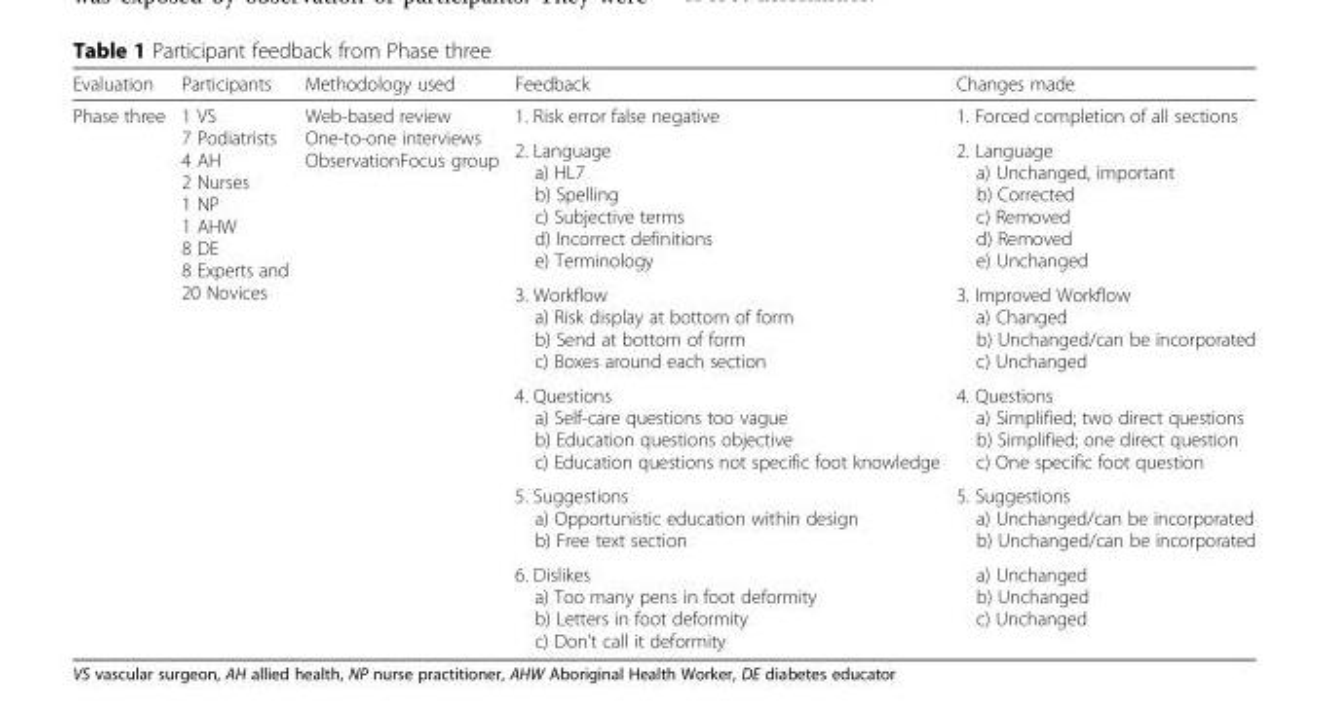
<table><thead><tr><td>Evaluation</td><td>Participants</td><td>Methodology used</td><td>Feedback</td><td>Changes made</td></tr></thead><tbody><tr><td rowspan="6">Phase three</td><td rowspan="6">1 VS 7 Podiatrists 4 AH 2 Nurses 1 NP 1 AHW 8 DE 8 Experts and 20 Novices</td><td rowspan="6">Web-based review One-to-one interviews ObservationFocus group</td><td>1. Risk error false negative</td><td>1. Forced completion of all sections</td></tr><tr><td>2. Language a) HL7 b) Spelling c) Subjective terms d) Incorrect definitions e) Terminology</td><td>2. Language a) Unchanged, important b) Corrected c) Removed d) Removed e) Unchanged</td></tr><tr><td>3. Workflow a) Risk display at bottom of form b) Send at bottom of form c) Boxes around each section</td><td>3. Improved Workflow a) Changed b) Unchanged/can be incorporated c) Unchanged</td></tr><tr><td>4. Questions a) Self-care questions too vague b) Education questions objective c) Education questions not specific foot knowledge</td><td>4. Questions a) Simplified; two direct questions b) Simplified; one direct question c) One specific foot question</td></tr><tr><td>5. Suggestions a) Opportunistic education within design b) Free text section</td><td>5. Suggestions a) Unchanged/can be incorporated b) Unchanged/can be incorporated</td></tr><tr><td>6. Dislikes a) Too many pens in foot deformity b) Letters in foot deformity c) Don’t call it deformity</td><td>a) Unchanged b) Unchanged c) Unchanged</td></tr></tbody></table>